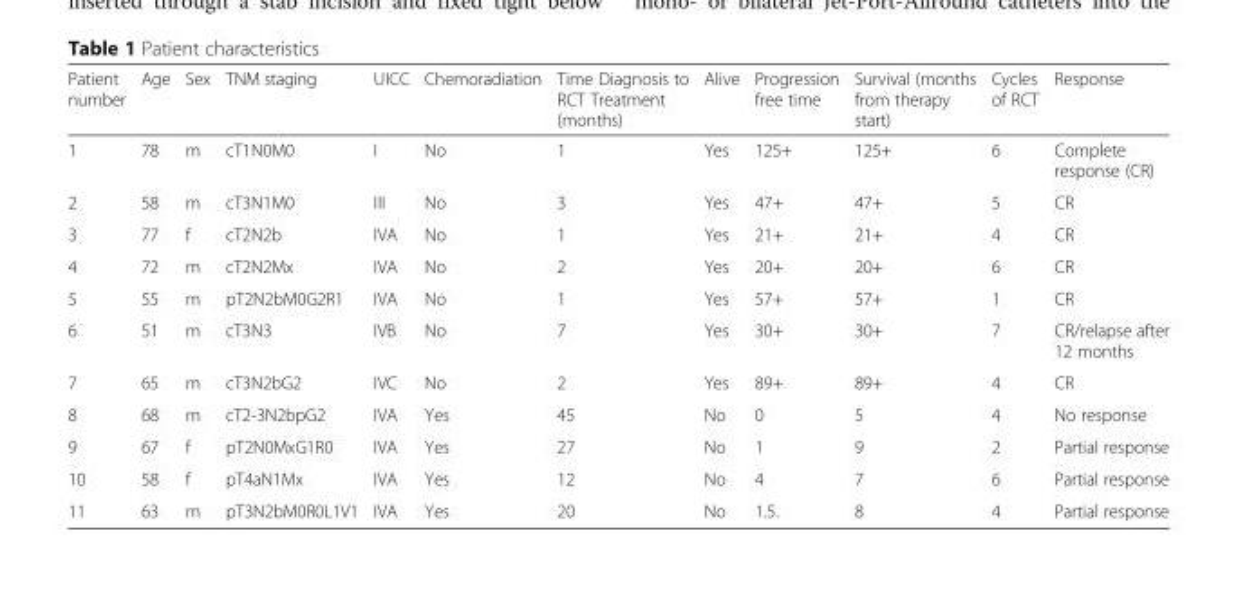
<table><thead><tr><td>Patient number</td><td>Age</td><td>Sex</td><td>TNM staging</td><td>UICC</td><td>Chemoradiation</td><td>Time Diagnosis to RCT Treatment (months)</td><td>Alive</td><td>Progression free time</td><td>Survival (months from therapy start)</td><td>Cycles of RCT</td><td>Response</td></tr></thead><tbody><tr><td>1</td><td>78</td><td>m</td><td>cT1N0M0</td><td>I</td><td>No</td><td>1</td><td>Yes</td><td>125+</td><td>125+</td><td>6</td><td>Complete response (CR)</td></tr><tr><td>2</td><td>58</td><td>m</td><td>cT3N1M0</td><td>III</td><td>No</td><td>3</td><td>Yes</td><td>47+</td><td>47+</td><td>5</td><td>CR</td></tr><tr><td>3</td><td>77</td><td>f</td><td>cT2N2b</td><td>IVA</td><td>No</td><td>1</td><td>Yes</td><td>21+</td><td>21+</td><td>4</td><td>CR</td></tr><tr><td>4</td><td>72</td><td>m</td><td>cT2N2Mx</td><td>IVA</td><td>No</td><td>2</td><td>Yes</td><td>20+</td><td>20+</td><td>6</td><td>CR</td></tr><tr><td>5</td><td>55</td><td>m</td><td>pT2N2bM0G2R1</td><td>IVA</td><td>No</td><td>1</td><td>Yes</td><td>57+</td><td>57+</td><td>1</td><td>CR</td></tr><tr><td>6</td><td>51</td><td>m</td><td>cT3N3</td><td>IVB</td><td>No</td><td>7</td><td>Yes</td><td>30+</td><td>30+</td><td>7</td><td>CR/relapse after 12 months</td></tr><tr><td>7</td><td>65</td><td>m</td><td>cT3N2bG2</td><td>IVC</td><td>No</td><td>2</td><td>Yes</td><td>89+</td><td>89+</td><td>4</td><td>CR</td></tr><tr><td>8</td><td>68</td><td>m</td><td>cT2-3N2bpG2</td><td>IVA</td><td>Yes</td><td>45</td><td>No</td><td>0</td><td>5</td><td>4</td><td>No response</td></tr><tr><td>9</td><td>67</td><td>f</td><td>pT2N0MxG1R0</td><td>IVA</td><td>Yes</td><td>27</td><td>No</td><td>1</td><td>9</td><td>2</td><td>Partial response</td></tr><tr><td>10</td><td>58</td><td>f</td><td>pT4aN1Mx</td><td>IVA</td><td>Yes</td><td>12</td><td>No</td><td>4</td><td>7</td><td>6</td><td>Partial response</td></tr><tr><td>11</td><td>63</td><td>m</td><td>pT3N2bM0R0L1V1</td><td>IVA</td><td>Yes</td><td>20</td><td>No</td><td>1.5.</td><td>8</td><td>4</td><td>Partial response</td></tr></tbody></table>